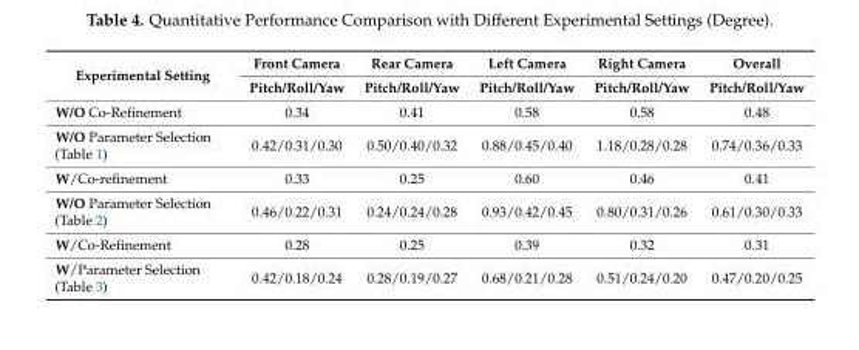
<table><thead><tr><td rowspan="2">Experimental Setting</td><td rowspan="2">Front Camera Pitch/Roll/Yaw</td><td rowspan="2">Rear Camera Pitch/Roll/Yaw</td><td rowspan="2">Left Camera Pitch/Roll/Yaw</td><td rowspan="2">Right Camera Pitch/Roll/Yaw</td><td rowspan="2">Overall Pitch/Roll/Yaw</td></tr><tr></tr></thead><tbody><tr><td>W/O Co-Refinement</td><td>0.34</td><td>0.41</td><td>0.58</td><td>0.58</td><td>0.48</td></tr><tr><td>W/O Parameter Selection (Table 1)</td><td>0.42/0.31/0.30</td><td>0.50/0.40/0.32</td><td>0.88/0.45/0.40</td><td>1.18/0.28/0.28</td><td>0.74/0.36/0.33</td></tr><tr><td>W/Co-refinement</td><td>0.33</td><td>0.25</td><td>0.60</td><td>0.46</td><td>0.41</td></tr><tr><td>W/O Parameter Selection (Table 2)</td><td>0.46/0.22/0.31</td><td>0.24/0.24/0.28</td><td>0.93/0.42/0.45</td><td>0.80/0.31/0.26</td><td>0.61/0.30/0.33</td></tr><tr><td>W/Co-Refinement</td><td>0.28</td><td>0.25</td><td>0.39</td><td>0.32</td><td>0.31</td></tr><tr><td>W/Parameter Selection (Table 3)</td><td>0.42/0.18/0.24</td><td>0.28/0.19/0.27</td><td>0.68/0.21/0.28</td><td>0.51/0.24/0.20</td><td>0.47/0.20/0.25</td></tr></tbody></table>